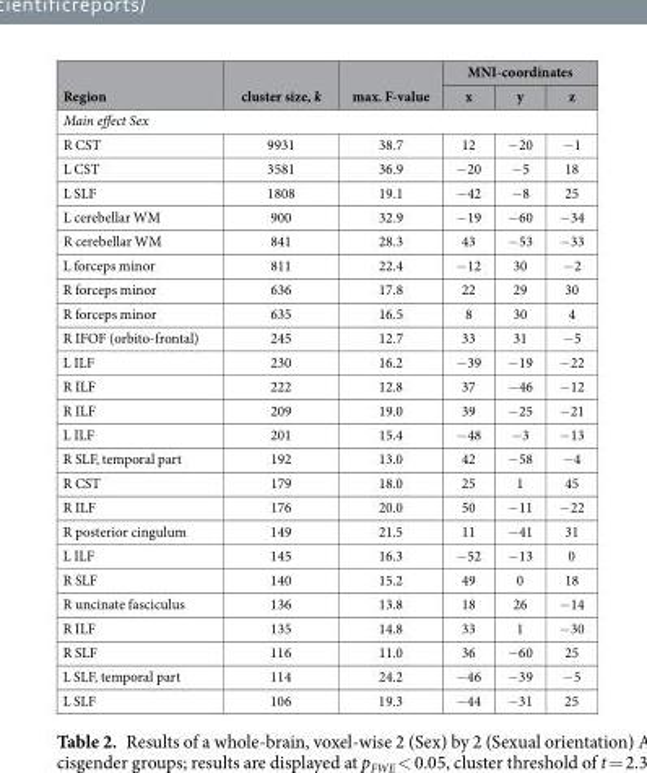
<table><thead><tr><td rowspan="2">Region</td><td rowspan="2">cluster size, k</td><td rowspan="2">max. F-value</td><td colspan="3">MNI-coordinates</td></tr><tr><td>x</td><td>y</td><td>z</td></tr></thead><tbody><tr><td colspan="6">Main effect Sex</td></tr><tr><td>R CST</td><td>9931</td><td>38.7</td><td>12</td><td>−20</td><td>−1</td></tr><tr><td>L CST</td><td>3581</td><td>36.9</td><td>−20</td><td>−5</td><td>18</td></tr><tr><td>L SLF</td><td>1808</td><td>19.1</td><td>−42</td><td>−8</td><td>25</td></tr><tr><td>L cerebellar WM</td><td>900</td><td>32.9</td><td>−19</td><td>−60</td><td>−34</td></tr><tr><td>R cerebellar WM</td><td>841</td><td>28.3</td><td>43</td><td>−53</td><td>−33</td></tr><tr><td>L forceps minor</td><td>811</td><td>22.4</td><td>−12</td><td>30</td><td>−2</td></tr><tr><td>R forceps minor</td><td>636</td><td>17.8</td><td>22</td><td>29</td><td>30</td></tr><tr><td>R forceps minor</td><td>635</td><td>16.5</td><td>8</td><td>30</td><td>4</td></tr><tr><td>R IFOF (orbito-frontal)</td><td>245</td><td>12.7</td><td>33</td><td>31</td><td>−5</td></tr><tr><td>L ILF</td><td>230</td><td>16.2</td><td>−39</td><td>−19</td><td>−22</td></tr><tr><td>R ILF</td><td>222</td><td>12.8</td><td>37</td><td>−46</td><td>−12</td></tr><tr><td>R ILF</td><td>209</td><td>19.0</td><td>39</td><td>−25</td><td>−21</td></tr><tr><td>L ILF</td><td>201</td><td>15.4</td><td>−48</td><td>−3</td><td>−13</td></tr><tr><td>R SLF, temporal part</td><td>192</td><td>13.0</td><td>42</td><td>−58</td><td>−4</td></tr><tr><td>R CST</td><td>179</td><td>18.0</td><td>25</td><td>1</td><td>45</td></tr><tr><td>R ILF</td><td>176</td><td>20.0</td><td>50</td><td>−11</td><td>−22</td></tr><tr><td>R posterior cingulum</td><td>149</td><td>21.5</td><td>11</td><td>−41</td><td>31</td></tr><tr><td>L ILF</td><td>145</td><td>16.3</td><td>−52</td><td>−13</td><td>0</td></tr><tr><td>R SLF</td><td>140</td><td>15.2</td><td>49</td><td>0</td><td>18</td></tr><tr><td>R uncinate fasciculus</td><td>136</td><td>13.8</td><td>18</td><td>26</td><td>−14</td></tr><tr><td>R ILF</td><td>135</td><td>14.8</td><td>33</td><td>1</td><td>−30</td></tr><tr><td>R SLF</td><td>116</td><td>11.0</td><td>36</td><td>−60</td><td>25</td></tr><tr><td>L SLF, temporal part</td><td>114</td><td>24.2</td><td>−46</td><td>−39</td><td>−5</td></tr><tr><td>L SLF</td><td>106</td><td>19.3</td><td>−44</td><td>−31</td><td>25</td></tr></tbody></table>